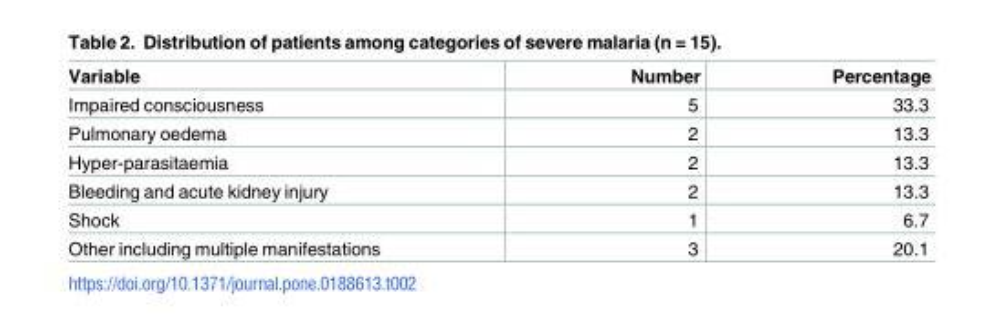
<table><thead><tr><td>Variable</td><td>Number</td><td>Percentage</td></tr></thead><tbody><tr><td>Impaired consciousness</td><td>5</td><td>33.3</td></tr><tr><td>Pulmonary oedema</td><td>2</td><td>13.3</td></tr><tr><td>Hyper-parasitaemia</td><td>2</td><td>13.3</td></tr><tr><td>Bleeding and acute kidney injury</td><td>2</td><td>13.3</td></tr><tr><td>Shock</td><td>1</td><td>6.7</td></tr><tr><td>Other including multiple manifestations</td><td>3</td><td>20.1</td></tr></tbody></table>